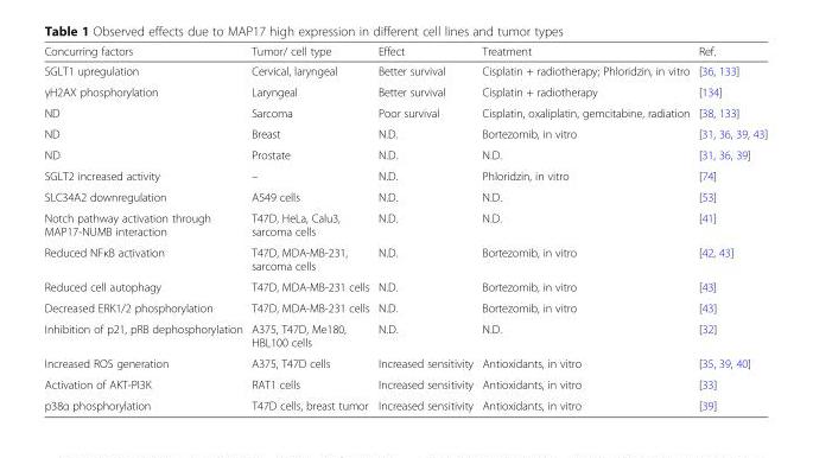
<table><thead><tr><td>Concurring factors</td><td>Tumor/ cell type</td><td>Effect</td><td>Treatment</td><td>Ref.</td></tr></thead><tbody><tr><td>SGLT1 upregulation</td><td>Cervical, laryngeal</td><td>Better survival</td><td>Cisplatin + radiotherapy; Phloridzin, in vitro</td><td>[36, 133]</td></tr><tr><td>γH2AX phosphorylation</td><td>Laryngeal</td><td>Better survival</td><td>Cisplatin + radiotherapy</td><td>[134]</td></tr><tr><td>ND</td><td>Sarcoma</td><td>Poor survival</td><td>Cisplatin, oxaliplatin, gemcitabine, radiation</td><td>[38, 133]</td></tr><tr><td>ND</td><td>Breast</td><td>N.D.</td><td>Bortezomib, in vitro</td><td>[31, 36, 39, 43]</td></tr><tr><td>ND</td><td>Prostate</td><td>N.D.</td><td>N.D.</td><td>[31, 36, 39]</td></tr><tr><td>SGLT2 increased activity</td><td>–</td><td>N.D.</td><td>Phloridzin, in vitro</td><td>[74]</td></tr><tr><td>SLC34A2 downregulation</td><td>A549 cells</td><td>N.D.</td><td>N.D.</td><td>[53]</td></tr><tr><td>Notch pathway activation through MAP17-NUMB interaction</td><td>T47D, HeLa, Calu3, sarcoma cells</td><td>N.D.</td><td>N.D.</td><td>[41]</td></tr><tr><td>Reduced NFκB activation</td><td>T47D, MDA-MB-231, sarcoma cells</td><td>N.D.</td><td>Bortezomib, in vitro</td><td>[42, 43]</td></tr><tr><td>Reduced cell autophagy</td><td>T47D, MDA-MB-231 cells</td><td>N.D.</td><td>Bortezomib, in vitro</td><td>[43]</td></tr><tr><td>Decreased ERK1/2 phosphorylation</td><td>T47D, MDA-MB-231 cells</td><td>N.D.</td><td>Bortezomib, in vitro</td><td>[43]</td></tr><tr><td>Inhibition of p21, pRB dephosphorylation</td><td>A375, T47D, Me180, HBL100 cells</td><td>N.D.</td><td>N.D.</td><td>[32]</td></tr><tr><td>Increased ROS generation</td><td>A375, T47D cells</td><td>Increased sensitivity</td><td>Antioxidants, in vitro</td><td>[35, 39, 40]</td></tr><tr><td>Activation of AKT-PI3K</td><td>RAT1 cells</td><td>Increased sensitivity</td><td>Antioxidants, in vitro</td><td>[33]</td></tr><tr><td>p38α phosphorylation</td><td>T47D cells, breast tumor</td><td>Increased sensitivity</td><td>Antioxidants, in vitro</td><td>[39]</td></tr></tbody></table>